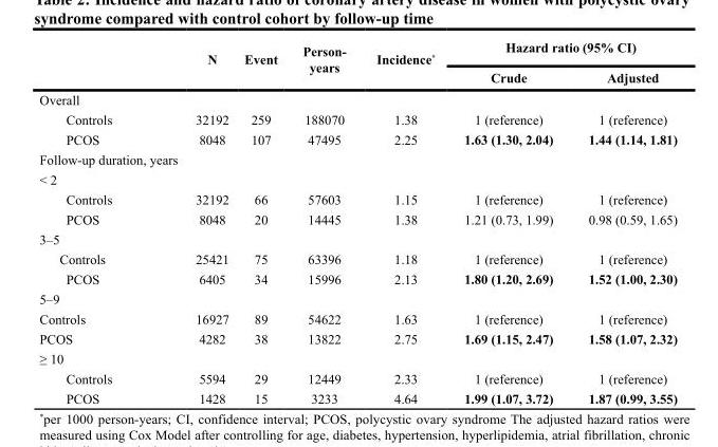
<table><thead><tr><td rowspan="2"></td><td rowspan="2">N</td><td rowspan="2">Event</td><td rowspan="2">Person- years</td><td rowspan="2">Incidence*</td><td colspan="2">Hazard ratio (95% CI)</td></tr><tr><td>Crude</td><td>Adjusted</td></tr></thead><tbody><tr><td colspan="7">Overall</td></tr><tr><td>Controls</td><td>32192</td><td>259</td><td>188070</td><td>1.38</td><td>1 (reference)</td><td>1 (reference)</td></tr><tr><td>PCOS</td><td>8048</td><td>107</td><td>47495</td><td>2.25</td><td>1.63 (1.30, 2.04)</td><td>1.44 (1.14, 1.81)</td></tr><tr><td colspan="7">Follow-up duration, years</td></tr><tr><td colspan="7">&lt; 2</td></tr><tr><td>Controls</td><td>32192</td><td>66</td><td>57603</td><td>1.15</td><td>1 (reference)</td><td>1 (reference)</td></tr><tr><td>PCOS</td><td>8048</td><td>20</td><td>14445</td><td>1.38</td><td>1.21 (0.73, 1.99)</td><td>0.98 (0.59, 1.65)</td></tr><tr><td colspan="7">3–5</td></tr><tr><td>Controls</td><td>25421</td><td>75</td><td>63396</td><td>1.18</td><td>1 (reference)</td><td>1 (reference)</td></tr><tr><td>PCOS</td><td>6405</td><td>34</td><td>15996</td><td>2.13</td><td>1.80 (1.20, 2.69)</td><td>1.52 (1.00, 2.30)</td></tr><tr><td colspan="7">5–9</td></tr><tr><td>Controls</td><td>16927</td><td>89</td><td>54622</td><td>1.63</td><td>1 (reference)</td><td>1 (reference)</td></tr><tr><td>PCOS</td><td>4282</td><td>38</td><td>13822</td><td>2.75</td><td>1.69 (1.15, 2.47)</td><td>1.58 (1.07, 2.32)</td></tr><tr><td colspan="7">≥ 10</td></tr><tr><td>Controls</td><td>5594</td><td>29</td><td>12449</td><td>2.33</td><td>1 (reference)</td><td>1 (reference)</td></tr><tr><td>PCOS</td><td>1428</td><td>15</td><td>3233</td><td>4.64</td><td>1.99 (1.07, 3.72)</td><td>1.87 (0.99, 3.55)</td></tr></tbody></table>